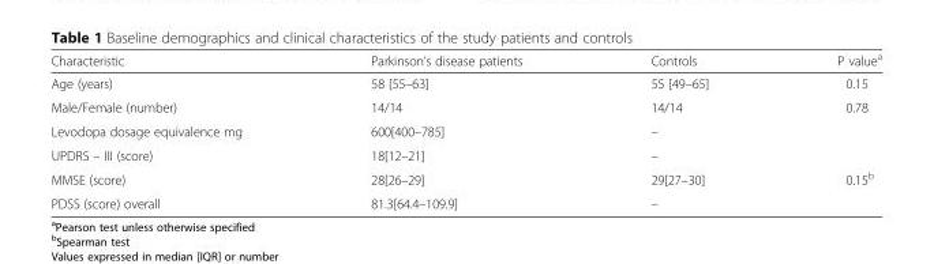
<table><thead><tr><td>Characteristic</td><td>Parkinson’s disease patients</td><td>Controls</td><td>P value<sup>a</sup></td></tr></thead><tbody><tr><td>Age (years)</td><td>58 [55–63]</td><td>55 [49–65]</td><td>0.15</td></tr><tr><td>Male/Female (number)</td><td>14/14</td><td>14/14</td><td>0.78</td></tr><tr><td>Levodopa dosage equivalence mg</td><td>600[400–785]</td><td>–</td><td></td></tr><tr><td>UPDRS – III (score)</td><td>18[12–21]</td><td>–</td><td></td></tr><tr><td>MMSE (score)</td><td>28[26–29]</td><td>29[27–30]</td><td>0.15<sup>b</sup></td></tr><tr><td>PDSS (score) overall</td><td>81.3[64.4–109.9]</td><td>–</td><td></td></tr></tbody></table>